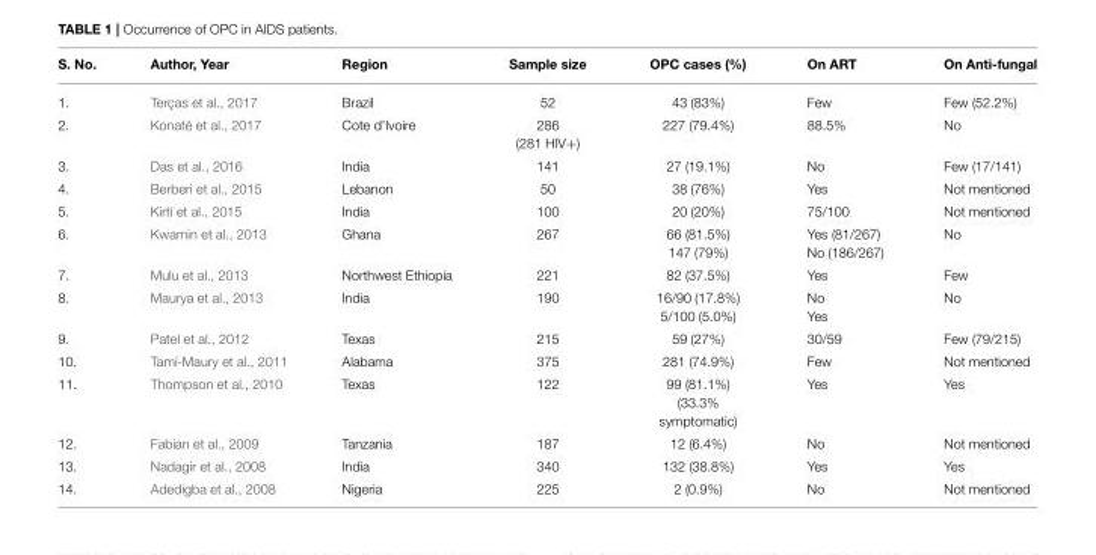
<table><thead><tr><td>S. No.</td><td>Author, Year</td><td>Region</td><td>Sample size</td><td>OPC cases (%)</td><td>On ART</td><td>On Anti-fungal</td></tr></thead><tbody><tr><td>1.</td><td>Terças et al., 2017</td><td>Brazil</td><td>52</td><td>43 (83%)</td><td>Few</td><td>Few (52.2%)</td></tr><tr><td>2.</td><td>Konaté et al., 2017</td><td>Cote d’Ivoire</td><td>286 (281 HIV+)</td><td>227 (79.4%)</td><td>88.5%</td><td>No</td></tr><tr><td>3.</td><td>Das et al., 2016</td><td>India</td><td>141</td><td>27 (19.1%)</td><td>No</td><td>Few (17/141)</td></tr><tr><td>4.</td><td>Berberi et al., 2015</td><td>Lebanon</td><td>50</td><td>38 (76%)</td><td>Yes</td><td>Not mentioned</td></tr><tr><td>5.</td><td>Kirti et al., 2015</td><td>India</td><td>100</td><td>20 (20%)</td><td>75/100</td><td>Not mentioned</td></tr><tr><td>6.</td><td>Kwamin et al., 2013</td><td>Ghana</td><td>267</td><td>66 (81.5%) 147 (79%)</td><td>Yes (81/267) No (186/267)</td><td>No</td></tr><tr><td>7.</td><td>Mulu et al., 2013</td><td>Northwest Ethiopia</td><td>221</td><td>82 (37.5%)</td><td>Yes</td><td>Few</td></tr><tr><td>8.</td><td>Maurya et al., 2013</td><td>India</td><td>190</td><td>16/90 (17.8%) 5/100 (5.0%)</td><td>No Yes</td><td>No</td></tr><tr><td>9.</td><td>Patel et al., 2012</td><td>Texas</td><td>215</td><td>59 (27%)</td><td>30/59</td><td>Few (79/215)</td></tr><tr><td>10.</td><td>Tamí-Maury et al., 2011</td><td>Alabama</td><td>375</td><td>281 (74.9%)</td><td>Few</td><td>Not mentioned</td></tr><tr><td>11.</td><td>Thompson et al., 2010</td><td>Texas</td><td>122</td><td>99 (81.1%) (33.3% symptomatic)</td><td>Yes</td><td>Yes</td></tr><tr><td>12.</td><td>Fabian et al., 2009</td><td>Tanzania</td><td>187</td><td>12 (6.4%)</td><td>No</td><td>Not mentioned</td></tr><tr><td>13.</td><td>Nadagir et al., 2008</td><td>India</td><td>340</td><td>132 (38.8%)</td><td>Yes</td><td>Yes</td></tr><tr><td>14.</td><td>Adedigba et al., 2008</td><td>Nigeria</td><td>225</td><td>2 (0.9%)</td><td>No</td><td>Not mentioned</td></tr></tbody></table>